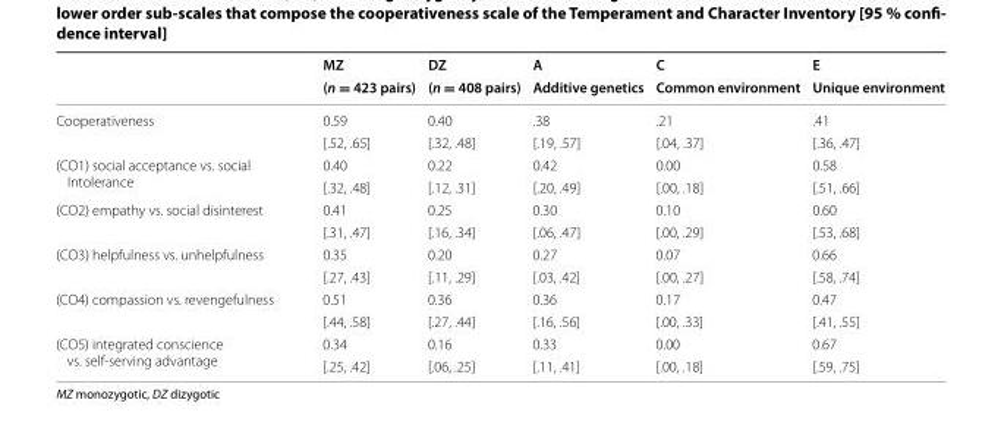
<table><thead><tr><td rowspan="2"></td><td rowspan="2">MZ (n = 423 pairs)</td><td rowspan="2">DZ (n = 408 pairs)</td><td rowspan="2">A Additive genetics</td><td rowspan="2">C Common environment</td><td rowspan="2">E Unique environment</td></tr><tr></tr></thead><tbody><tr><td rowspan="2">Cooperativeness</td><td>0.59</td><td>0.40</td><td>.38</td><td>.21</td><td>.41</td></tr><tr><td>[.52, .65]</td><td>[.32, .48]</td><td>[.19, .57]</td><td>[.04, .37]</td><td>[.36, .47]</td></tr><tr><td rowspan="2">(CO1) social acceptance vs. social Intolerance</td><td>0.40</td><td>0.22</td><td>0.42</td><td>0.00</td><td>0.58</td></tr><tr><td>[.32, .48]</td><td>[.12, .31]</td><td>[.20, .49]</td><td>[.00, .18]</td><td>[.51, .66]</td></tr><tr><td rowspan="2">(CO2) empathy vs. social disinterest</td><td>0.41</td><td>0.25</td><td>0.30</td><td>0.10</td><td>0.60</td></tr><tr><td>[.31, .47]</td><td>[.16, .34]</td><td>[.06, .47]</td><td>[.00, .29]</td><td>[.53, .68]</td></tr><tr><td rowspan="2">(CO3) helpfulness vs. unhelpfulness</td><td>0.35</td><td>0.20</td><td>0.27</td><td>0.07</td><td>0.66</td></tr><tr><td>[.27, .43]</td><td>[.11, .29]</td><td>[.03, .42]</td><td>[.00, .27]</td><td>[.58, .74]</td></tr><tr><td rowspan="2">(CO4) compassion vs. revengefulness</td><td>0.51</td><td>0.36</td><td>0.36</td><td>0.17</td><td>0.47</td></tr><tr><td>[.44, .58]</td><td>[.27, .44]</td><td>[.16, .56]</td><td>[.00, .33]</td><td>[.41, .55]</td></tr><tr><td rowspan="2">(CO5) integrated conscience vs. self-serving advantage</td><td>0.34</td><td>0.16</td><td>0.33</td><td>0.00</td><td>0.67</td></tr><tr><td>[.25, .42]</td><td>[.06, .25]</td><td>[.11, .41]</td><td>[.00, .18]</td><td>[.59, .75]</td></tr></tbody></table>